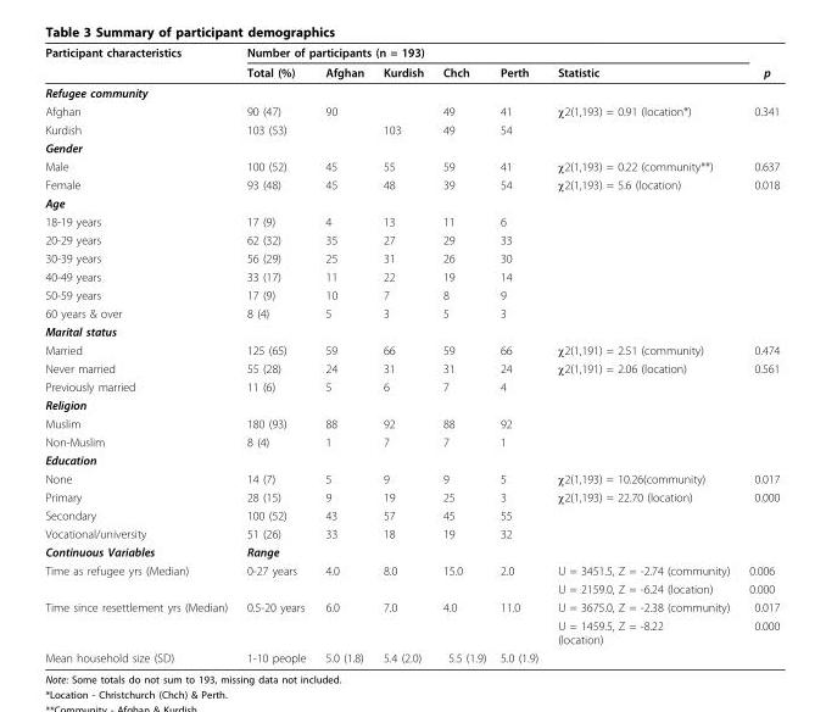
<table><thead><tr><td rowspan="2">Participant characteristics</td><td colspan="6">Number of participants (n = 193)</td><td rowspan="2">p</td></tr><tr><td>Total (%)</td><td>Afghan</td><td>Kurdish</td><td>Chch</td><td>Perth</td><td>Statistic</td></tr></thead><tbody><tr><td colspan="8">Refugee community</td></tr><tr><td>Afghan</td><td>90 (47)</td><td>90</td><td></td><td>49</td><td>41</td><td>χ2(1,193) = 0.91 (location*)</td><td>0.341</td></tr><tr><td>Kurdish</td><td>103 (53)</td><td></td><td>103</td><td>49</td><td>54</td><td></td><td></td></tr><tr><td colspan="8">Gender</td></tr><tr><td>Male</td><td>100 (52)</td><td>45</td><td>55</td><td>59</td><td>41</td><td>χ2(1,193) = 0.22 (community**)</td><td>0.637</td></tr><tr><td>Female</td><td>93 (48)</td><td>45</td><td>48</td><td>39</td><td>54</td><td>χ2(1,193) = 5.6 (location)</td><td>0.018</td></tr><tr><td colspan="8">Age</td></tr><tr><td>18-19 years</td><td>17 (9)</td><td>4</td><td>13</td><td>11</td><td>6</td><td></td><td></td></tr><tr><td>20-29 years</td><td>62 (32)</td><td>35</td><td>27</td><td>29</td><td>33</td><td></td><td></td></tr><tr><td>30-39 years</td><td>56 (29)</td><td>25</td><td>31</td><td>26</td><td>30</td><td></td><td></td></tr><tr><td>40-49 years</td><td>33 (17)</td><td>11</td><td>22</td><td>19</td><td>14</td><td></td><td></td></tr><tr><td>50-59 years</td><td>17 (9)</td><td>10</td><td>7</td><td>8</td><td>9</td><td></td><td></td></tr><tr><td>60 years &amp; over</td><td>8 (4)</td><td>5</td><td>3</td><td>5</td><td>3</td><td></td><td></td></tr><tr><td colspan="8">Marital status</td></tr><tr><td>Married</td><td>125 (65)</td><td>59</td><td>66</td><td>59</td><td>66</td><td>χ2(1,191) = 2.51 (community)</td><td>0.474</td></tr><tr><td>Never married</td><td>55 (28)</td><td>24</td><td>31</td><td>31</td><td>24</td><td>χ2(1,191) = 2.06 (location)</td><td>0.561</td></tr><tr><td>Previously married</td><td>11 (6)</td><td>5</td><td>6</td><td>7</td><td>4</td><td></td><td></td></tr><tr><td colspan="8">Religion</td></tr><tr><td>Muslim</td><td>180 (93)</td><td>88</td><td>92</td><td>88</td><td>92</td><td></td><td></td></tr><tr><td>Non-Muslim</td><td>8 (4)</td><td>1</td><td>7</td><td>7</td><td>1</td><td></td><td></td></tr><tr><td colspan="8">Education</td></tr><tr><td>None</td><td>14 (7)</td><td>5</td><td>9</td><td>9</td><td>5</td><td>χ2(1,193) = 10.26(community)</td><td>0.017</td></tr><tr><td>Primary</td><td>28 (15)</td><td>9</td><td>19</td><td>25</td><td>3</td><td>χ2(1,193) = 22.70 (location)</td><td>0.000</td></tr><tr><td>Secondary</td><td>100 (52)</td><td>43</td><td>57</td><td>45</td><td>55</td><td></td><td></td></tr><tr><td>Vocational/university</td><td>51 (26)</td><td>33</td><td>18</td><td>19</td><td>32</td><td></td><td></td></tr><tr><td>Continuous Variables</td><td>Range</td><td></td><td></td><td></td><td></td><td></td><td></td></tr><tr><td rowspan="2">Time as refugee yrs (Median)</td><td>0-27 years</td><td>4.0</td><td>8.0</td><td>15.0</td><td>2.0</td><td>U = 3451.5, Z = -2.74 (community)</td><td>0.006</td></tr><tr><td></td><td></td><td></td><td></td><td></td><td>U = 2159.0, Z = -6.24 (location)</td><td>0.000</td></tr><tr><td rowspan="2">Time since resettlement yrs (Median)</td><td>0.5-20 years</td><td>6.0</td><td>7.0</td><td>4.0</td><td>11.0</td><td>U = 3675.0, Z = -2.38 (community)</td><td>0.017</td></tr><tr><td></td><td></td><td></td><td></td><td></td><td>U = 1459.5, Z = -8.22 (location)</td><td>0.000</td></tr><tr><td>Mean household size (SD)</td><td>1-10 people</td><td>5.0 (1.8)</td><td>5.4 (2.0)</td><td>5.5 (1.9)</td><td>5.0 (1.9)</td><td></td><td></td></tr></tbody></table>